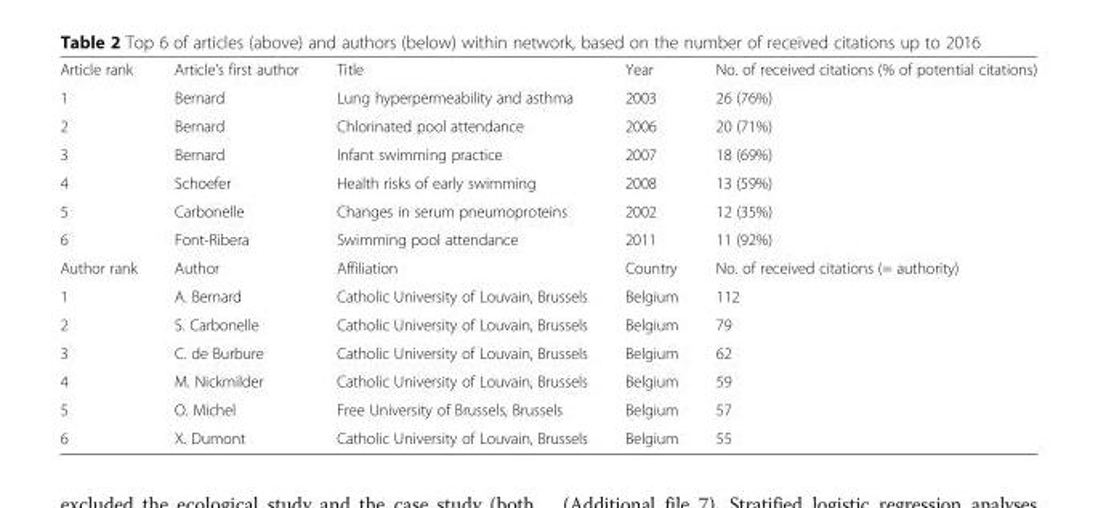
<table><tbody><tr><td>Article rank</td><td>Article’s first author</td><td>Title</td><td>Year</td><td>No. of received citations (% of potential citations)</td></tr><tr><td>1</td><td>Bernard</td><td>Lung hyperpermeability and asthma</td><td>2003</td><td>26 (76%)</td></tr><tr><td>2</td><td>Bernard</td><td>Chlorinated pool attendance</td><td>2006</td><td>20 (71%)</td></tr><tr><td>3</td><td>Bernard</td><td>Infant swimming practice</td><td>2007</td><td>18 (69%)</td></tr><tr><td>4</td><td>Schoefer</td><td>Health risks of early swimming</td><td>2008</td><td>13 (59%)</td></tr><tr><td>5</td><td>Carbonelle</td><td>Changes in serum pneumoproteins</td><td>2002</td><td>12 (35%)</td></tr><tr><td>6</td><td>Font-Ribera</td><td>Swimming pool attendance</td><td>2011</td><td>11 (92%)</td></tr><tr><td>Author rank</td><td>Author</td><td>Affiliation</td><td>Country</td><td>No. of received citations (= authority)</td></tr><tr><td>1</td><td>A. Bernard</td><td>Catholic University of Louvain, Brussels</td><td>Belgium</td><td>112</td></tr><tr><td>2</td><td>S. Carbonelle</td><td>Catholic University of Louvain, Brussels</td><td>Belgium</td><td>79</td></tr><tr><td>3</td><td>C. de Burbure</td><td>Catholic University of Louvain, Brussels</td><td>Belgium</td><td>62</td></tr><tr><td>4</td><td>M. Nickmilder</td><td>Catholic University of Louvain, Brussels</td><td>Belgium</td><td>59</td></tr><tr><td>5</td><td>O. Michel</td><td>Free University of Brussels, Brussels</td><td>Belgium</td><td>57</td></tr><tr><td>6</td><td>X. Dumont</td><td>Catholic University of Louvain, Brussels</td><td>Belgium</td><td>55</td></tr></tbody></table>